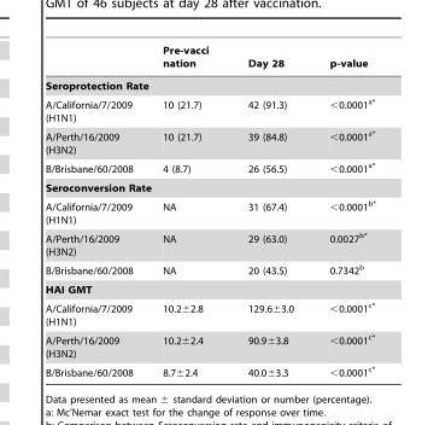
<table><thead><tr><td></td><td>Pre-vacci nation</td><td>Day 28</td><td>p-value</td></tr></thead><tbody><tr><td colspan="4">Seroprotection Rate</td></tr><tr><td>A/California/7/2009 (H1N1)</td><td>10 (21.7)</td><td>42 (91.3)</td><td>&lt;0.0001<sup>a</sup>*</td></tr><tr><td>A/Perth/16/2009 (H3N2)</td><td>10 (21.7)</td><td>39 (84.8)</td><td>&lt;0.0001<sup>a</sup>*</td></tr><tr><td>B/Brisbane/60/2008</td><td>4 (8.7)</td><td>26 (56.5)</td><td>&lt;0.0001<sup>a</sup>*</td></tr><tr><td colspan="4">Seroconversion Rate</td></tr><tr><td>A/California/7/2009 (H1N1)</td><td>NA</td><td>31 (67.4)</td><td>&lt;0.0001<sup>b</sup>*</td></tr><tr><td>A/Perth/16/2009 (H3N2)</td><td>NA</td><td>29 (63.0)</td><td>0.0027<sup>b</sup>*</td></tr><tr><td>B/Brisbane/60/2008</td><td>NA</td><td>20 (43.5)</td><td>0.7342<sup>b</sup></td></tr><tr><td colspan="4">HAI GMT</td></tr><tr><td>A/California/7/2009 (H1N1)</td><td>10.2±2.8</td><td>129.6±3.0</td><td>&lt;0.0001<sup>c</sup>*</td></tr><tr><td>A/Perth/16/2009 (H3N2)</td><td>10.2±2.4</td><td>90.9±3.8</td><td>&lt;0.0001<sup>c</sup>*</td></tr><tr><td>B/Brisbane/60/2008</td><td>8.7±2.4</td><td>40.0±3.3</td><td>&lt;0.0001<sup>c</sup>*</td></tr></tbody></table>